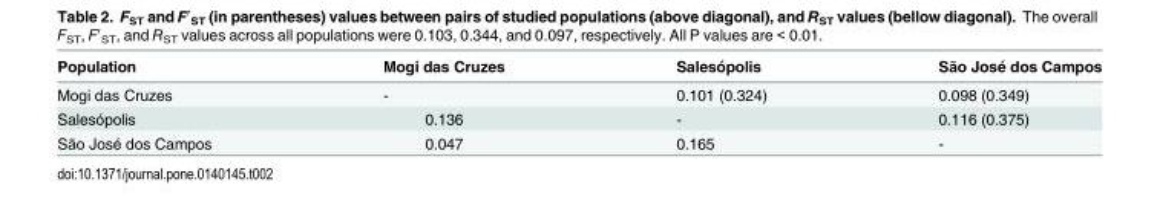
<table><thead><tr><td>Population</td><td>Mogi das Cruzes</td><td>Salesópolis</td><td>São José dos Campos</td></tr></thead><tbody><tr><td>Mogi das Cruzes</td><td>-</td><td>0.101 (0.324)</td><td>0.098 (0.349)</td></tr><tr><td>Salesópolis</td><td>0.136</td><td>-</td><td>0.116 (0.375)</td></tr><tr><td>São José dos Campos</td><td>0.047</td><td>0.165</td><td>-</td></tr></tbody></table>